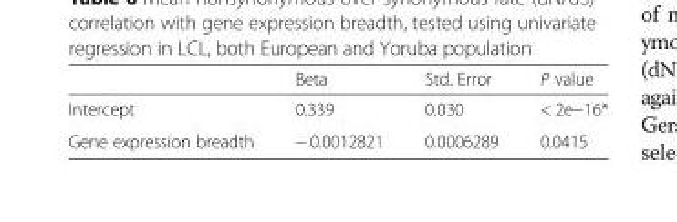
<table><thead><tr><td></td><td>Beta</td><td>Std. Error</td><td>P value</td></tr></thead><tbody><tr><td>Intercept</td><td>0.339</td><td>0.030</td><td>&lt; 2e−16*</td></tr><tr><td>Gene expression breadth</td><td>− 0.0012821</td><td>0.0006289</td><td>0.0415</td></tr></tbody></table>